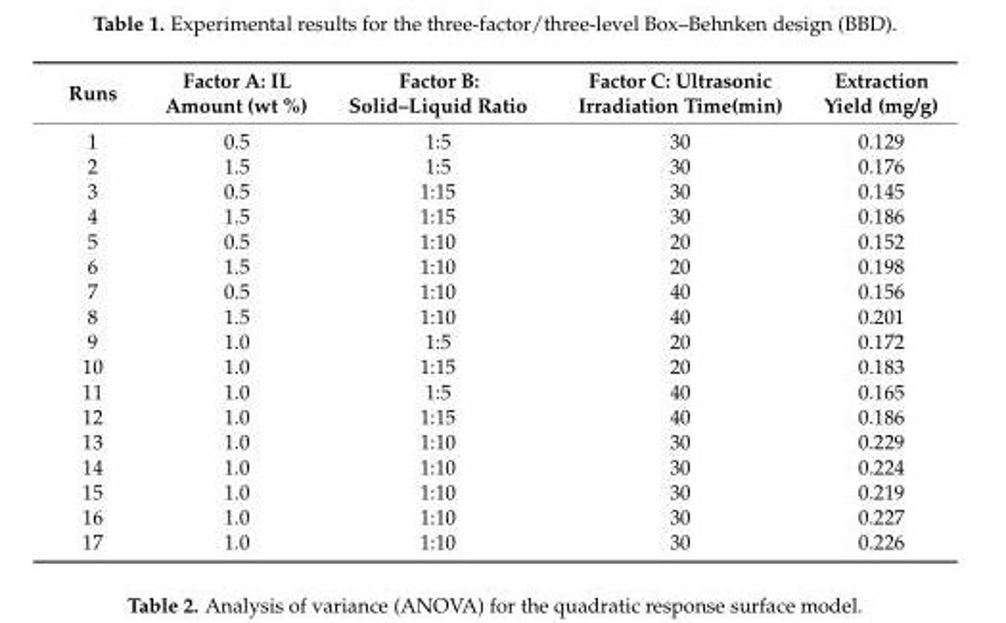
<table><thead><tr><td>Runs</td><td>Factor A: IL Amount (wt %)</td><td>Factor B: Solid–Liquid Ratio</td><td>Factor C: Ultrasonic Irradiation Time(min)</td><td>Extraction Yield (mg/g)</td></tr></thead><tbody><tr><td>1</td><td>0.5</td><td>1:5</td><td>30</td><td>0.129</td></tr><tr><td>2</td><td>1.5</td><td>1:5</td><td>30</td><td>0.176</td></tr><tr><td>3</td><td>0.5</td><td>1:15</td><td>30</td><td>0.145</td></tr><tr><td>4</td><td>1.5</td><td>1:15</td><td>30</td><td>0.186</td></tr><tr><td>5</td><td>0.5</td><td>1:10</td><td>20</td><td>0.152</td></tr><tr><td>6</td><td>1.5</td><td>1:10</td><td>20</td><td>0.198</td></tr><tr><td>7</td><td>0.5</td><td>1:10</td><td>40</td><td>0.156</td></tr><tr><td>8</td><td>1.5</td><td>1:10</td><td>40</td><td>0.201</td></tr><tr><td>9</td><td>1.0</td><td>1:5</td><td>20</td><td>0.172</td></tr><tr><td>10</td><td>1.0</td><td>1:15</td><td>20</td><td>0.183</td></tr><tr><td>11</td><td>1.0</td><td>1:5</td><td>40</td><td>0.165</td></tr><tr><td>12</td><td>1.0</td><td>1:15</td><td>40</td><td>0.186</td></tr><tr><td>13</td><td>1.0</td><td>1:10</td><td>30</td><td>0.229</td></tr><tr><td>14</td><td>1.0</td><td>1:10</td><td>30</td><td>0.224</td></tr><tr><td>15</td><td>1.0</td><td>1:10</td><td>30</td><td>0.219</td></tr><tr><td>16</td><td>1.0</td><td>1:10</td><td>30</td><td>0.227</td></tr><tr><td>17</td><td>1.0</td><td>1:10</td><td>30</td><td>0.226</td></tr></tbody></table>